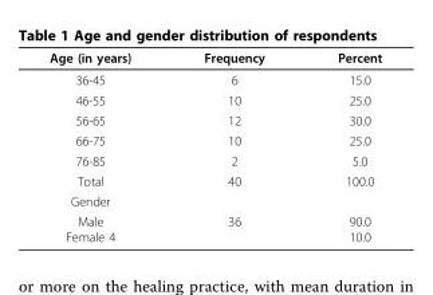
<table><thead><tr><td>Age (in years)</td><td>Frequency</td><td>Percent</td></tr></thead><tbody><tr><td>36-45</td><td>6</td><td>15.0</td></tr><tr><td>46-55</td><td>10</td><td>25.0</td></tr><tr><td>56-65</td><td>12</td><td>30.0</td></tr><tr><td>66-75</td><td>10</td><td>25.0</td></tr><tr><td>76-85</td><td>2</td><td>5.0</td></tr><tr><td>Total</td><td>40</td><td>100.0</td></tr><tr><td colspan="3">Gender</td></tr><tr><td>Male Female 4</td><td>36</td><td>90.0 10.0</td></tr></tbody></table>